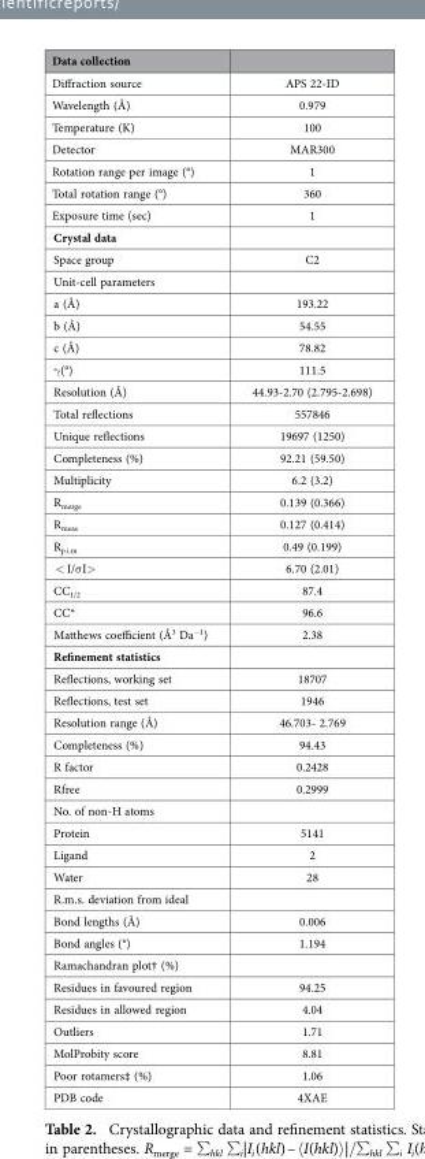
<table><thead><tr><td>Data collection</td><td></td></tr></thead><tbody><tr><td>Diffraction source</td><td>APS 22-ID</td></tr><tr><td>Wavelength (Å)</td><td>0.979</td></tr><tr><td>Temperature (K)</td><td>100</td></tr><tr><td>Detector</td><td>MAR300</td></tr><tr><td>Rotation range per image (°)</td><td>1</td></tr><tr><td>Total rotation range (°)</td><td>360</td></tr><tr><td>Exposure time (sec)</td><td>1</td></tr><tr><td colspan="2">Crystal data</td></tr><tr><td>Space group</td><td>C2</td></tr><tr><td colspan="2">Unit-cell parameters</td></tr><tr><td>a (Å)</td><td>193.22</td></tr><tr><td>b (Å)</td><td>54.55</td></tr><tr><td>c (Å)</td><td>78.82</td></tr><tr><td>γ (°)</td><td>111.5</td></tr><tr><td>Resolution (Å)</td><td>44.93-2.70 (2.795-2.698)</td></tr><tr><td>Total reflections</td><td>557846</td></tr><tr><td>Unique reflections</td><td>19697 (1250)</td></tr><tr><td>Completeness (%)</td><td>92.21 (59.50)</td></tr><tr><td>Multiplicity</td><td>6.2 (3.2)</td></tr><tr><td>R<sub>merge</sub></td><td>0.139 (0.366)</td></tr><tr><td>R<sub>meas</sub></td><td>0.127 (0.414)</td></tr><tr><td>R<sub>p.i.m</sub></td><td>0.49 (0.199)</td></tr><tr><td>&lt; I/σ I&gt;</td><td>6.70 (2.01)</td></tr><tr><td>CC<sub>1/2</sub></td><td>87.4</td></tr><tr><td>CC*</td><td>96.6</td></tr><tr><td>Matthews coefficient (Å<sup>3</sup> Da<sup>−1</sup>)</td><td>2.38</td></tr><tr><td colspan="2">Refinement statistics</td></tr><tr><td>Reflections, working set</td><td>18707</td></tr><tr><td>Reflections, test set</td><td>1946</td></tr><tr><td>Resolution range (Å)</td><td>46.703- 2.769</td></tr><tr><td>Completeness (%)</td><td>94.43</td></tr><tr><td>R factor</td><td>0.2428</td></tr><tr><td>Rfree</td><td>0.2999</td></tr><tr><td colspan="2">No. of non-H atoms</td></tr><tr><td>Protein</td><td>5141</td></tr><tr><td>Ligand</td><td>2</td></tr><tr><td>Water</td><td>28</td></tr><tr><td colspan="2">R.m.s. deviation from ideal</td></tr><tr><td>Bond lengths (Å)</td><td>0.006</td></tr><tr><td>Bond angles (°)</td><td>1.194</td></tr><tr><td colspan="2">Ramachandran plot† (%)</td></tr><tr><td>Residues in favoured region</td><td>94.25</td></tr><tr><td>Residues in allowed region</td><td>4.04</td></tr><tr><td>Outliers</td><td>1.71</td></tr><tr><td>MolProbity score</td><td>8.81</td></tr><tr><td>Poor rotamers‡ (%)</td><td>1.06</td></tr><tr><td>PDB code</td><td>4XAE</td></tr></tbody></table>